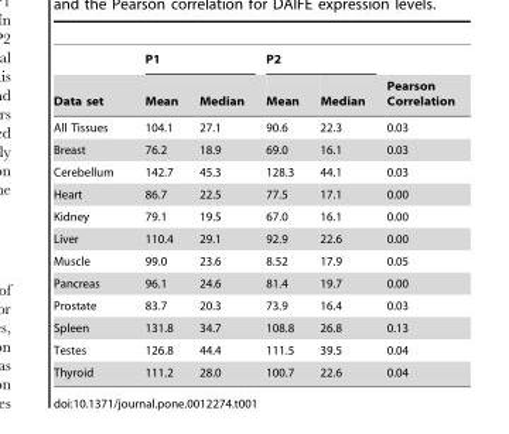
<table><thead><tr><td rowspan="2">Data set</td><td colspan="2">P1</td><td colspan="2">P2</td><td rowspan="2">Pearson Correlation</td></tr><tr><td>Mean</td><td>Median</td><td>Mean</td><td>Median</td></tr></thead><tbody><tr><td>All Tissues</td><td>104.1</td><td>27.1</td><td>90.6</td><td>22.3</td><td>0.03</td></tr><tr><td>Breast</td><td>76.2</td><td>18.9</td><td>69.0</td><td>16.1</td><td>0.03</td></tr><tr><td>Cerebellum</td><td>142.7</td><td>45.3</td><td>128.3</td><td>44.1</td><td>0.03</td></tr><tr><td>Heart</td><td>86.7</td><td>22.5</td><td>77.5</td><td>17.1</td><td>0.00</td></tr><tr><td>Kidney</td><td>79.1</td><td>19.5</td><td>67.0</td><td>16.1</td><td>0.00</td></tr><tr><td>Liver</td><td>110.4</td><td>29.1</td><td>92.9</td><td>22.6</td><td>0.00</td></tr><tr><td>Muscle</td><td>99.0</td><td>23.6</td><td>8.52</td><td>17.9</td><td>0.05</td></tr><tr><td>Pancreas</td><td>96.1</td><td>24.6</td><td>81.4</td><td>19.7</td><td>0.00</td></tr><tr><td>Prostate</td><td>83.7</td><td>20.3</td><td>73.9</td><td>16.4</td><td>0.03</td></tr><tr><td>Spleen</td><td>131.8</td><td>34.7</td><td>108.8</td><td>26.8</td><td>0.13</td></tr><tr><td>Testes</td><td>126.8</td><td>44.4</td><td>111.5</td><td>39.5</td><td>0.04</td></tr><tr><td>Thyroid</td><td>111.2</td><td>28.0</td><td>100.7</td><td>22.6</td><td>0.04</td></tr></tbody></table>